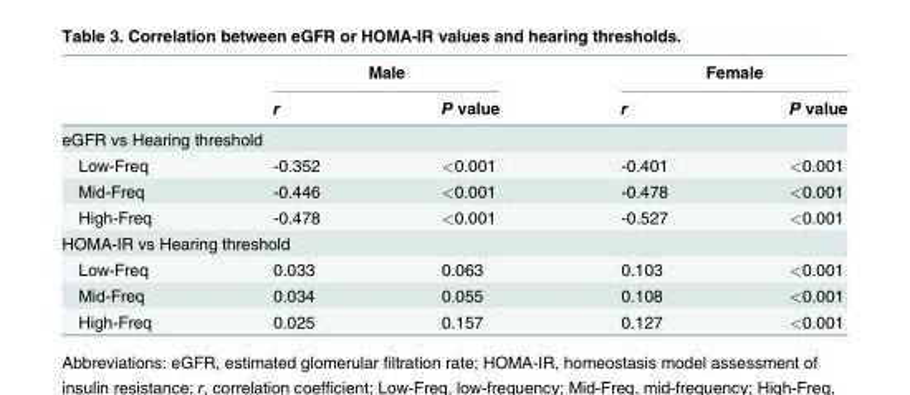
<table><thead><tr><td rowspan="2"></td><td colspan="2">Male</td><td colspan="2">Female</td></tr><tr><td>r</td><td>P value</td><td>r</td><td>P value</td></tr></thead><tbody><tr><td colspan="5">eGFR vs Hearing threshold</td></tr><tr><td>Low-Freq</td><td>-0.352</td><td>&lt;0.001</td><td>-0.401</td><td>&lt;0.001</td></tr><tr><td>Mid-Freq</td><td>-0.446</td><td>&lt;0.001</td><td>-0.478</td><td>&lt;0.001</td></tr><tr><td>High-Freq</td><td>-0.478</td><td>&lt;0.001</td><td>-0.527</td><td>&lt;0.001</td></tr><tr><td colspan="5">HOMA-IR vs Hearing threshold</td></tr><tr><td>Low-Freq</td><td>0.033</td><td>0.063</td><td>0.103</td><td>&lt;0.001</td></tr><tr><td>Mid-Freq</td><td>0.034</td><td>0.055</td><td>0.108</td><td>&lt;0.001</td></tr><tr><td>High-Freq</td><td>0.025</td><td>0.157</td><td>0.127</td><td>&lt;0.001</td></tr></tbody></table>